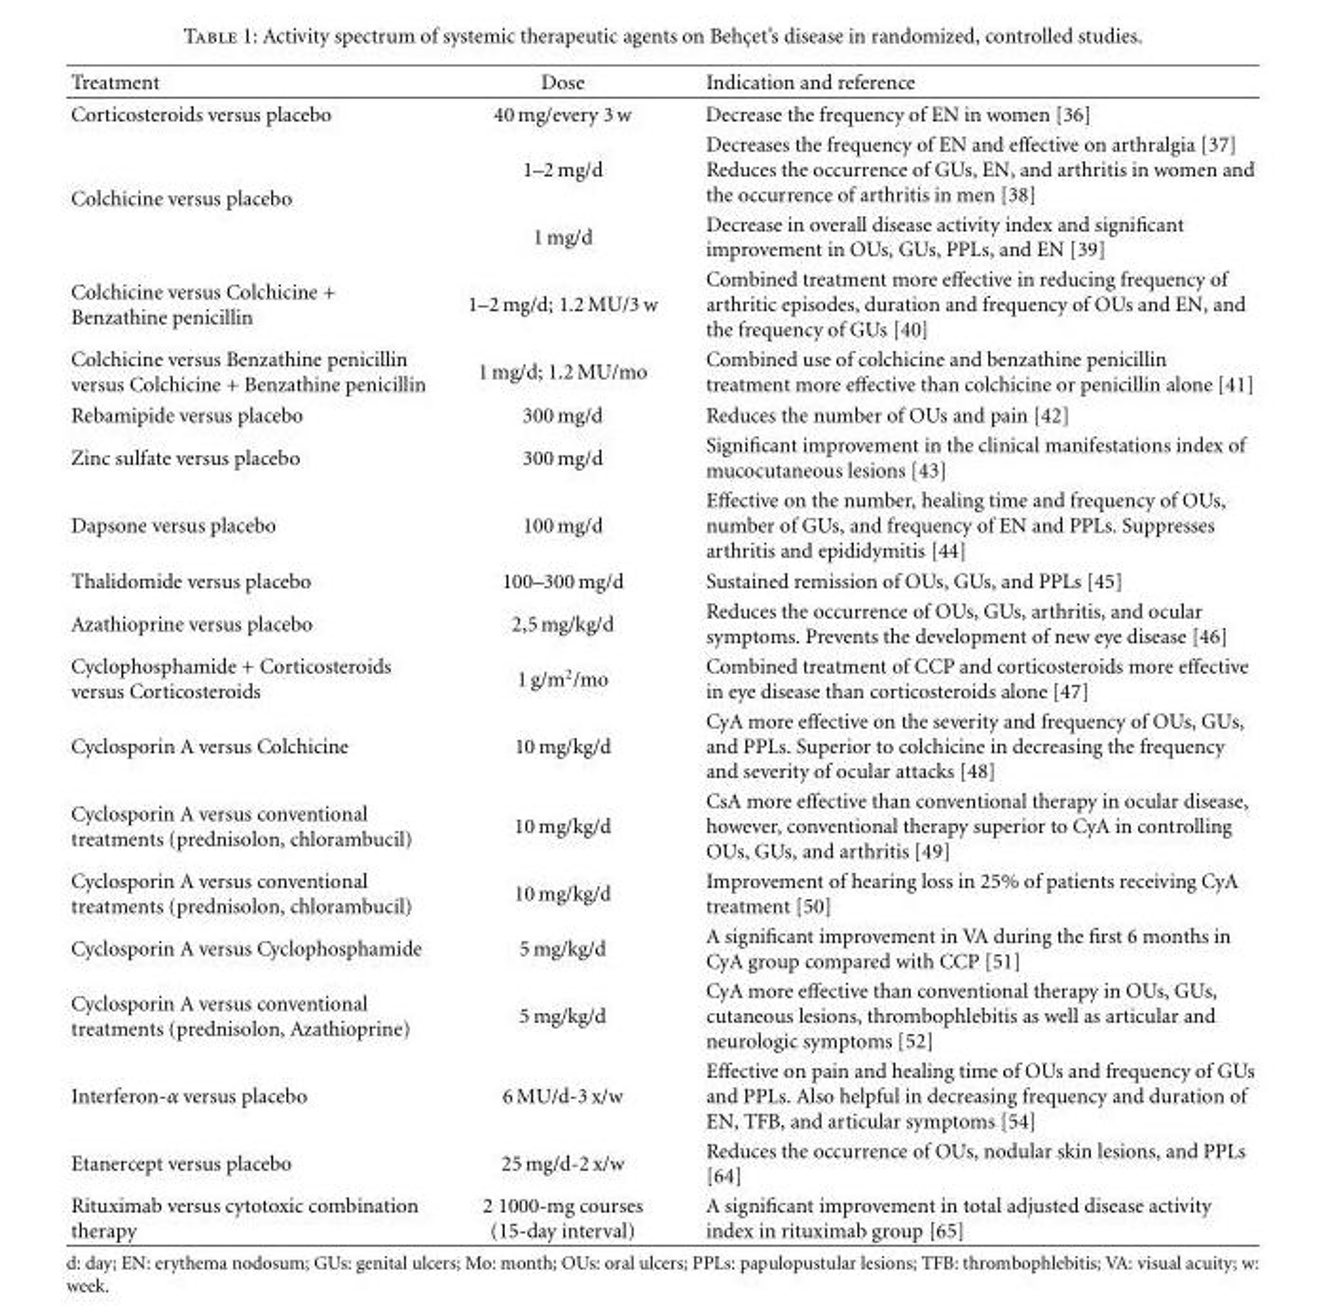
<table><thead><tr><td>Treatment</td><td>Dose</td><td>Indication and reference</td></tr></thead><tbody><tr><td>Corticosteroids versus placebo</td><td>40 mg/every 3 w</td><td>Decrease the frequency of EN in women [36]</td></tr><tr><td rowspan="2">Colchicine versus placebo</td><td>1–2 mg/d</td><td>Decreases the frequency of EN and effective on arthralgia [37] Reduces the occurrence of GUs, EN, and arthritis in women and the occurrence of arthritis in men [38]</td></tr><tr><td>1 mg/d</td><td>Decrease in overall disease activity index and significant improvement in OUs, GUs, PPLs, and EN [39]</td></tr><tr><td>Colchicine versus Colchicine + Benzathine penicillin</td><td>1–2 mg/d; 1.2 MU/3 w</td><td>Combined treatment more effective in reducing frequency of arthritic episodes, duration and frequency of OUs and EN, and the frequency of GUs [40]</td></tr><tr><td>Colchicine versus Benzathine penicillin versus Colchicine + Benzathine penicillin</td><td>1 mg/d; 1.2 MU/mo</td><td>Combined use of colchicine and benzathine penicillin treatment more effective than colchicine or penicillin alone [41]</td></tr><tr><td>Rebamipide versus placebo</td><td>300 mg/d</td><td>Reduces the number of OUs and pain [42]</td></tr><tr><td>Zinc sulfate versus placebo</td><td>300 mg/d</td><td>Significant improvement in the clinical manifestations index of mucocutaneous lesions [43]</td></tr><tr><td>Dapsone versus placebo</td><td>100 mg/d</td><td>Effective on the number, healing time and frequency of OUs, number of GUs, and frequency of EN and PPLs. Suppresses arthritis and epididymitis [44]</td></tr><tr><td>Thalidomide versus placebo</td><td>100–300 mg/d</td><td>Sustained remission of OUs, GUs, and PPLs [45]</td></tr><tr><td>Azathioprine versus placebo</td><td>2,5 mg/kg/d</td><td>Reduces the occurrence of OUs, GUs, arthritis, and ocular symptoms. Prevents the development of new eye disease [46]</td></tr><tr><td>Cyclophosphamide + Corticosteroids versus Corticosteroids</td><td>1 g/m<sup>2</sup>/mo</td><td>Combined treatment of CCP and corticosteroids more effective in eye disease than corticosteroids alone [47]</td></tr><tr><td>Cyclosporin A versus Colchicine</td><td>10 mg/kg/d</td><td>CyA more effective on the severity and frequency of OUs, GUs, and PPLs. Superior to colchicine in decreasing the frequency and severity of ocular attacks [48]</td></tr><tr><td>Cyclosporin A versus conventional treatments (prednisolon, chlorambucil)</td><td>10 mg/kg/d</td><td>CsA more effective than conventional therapy in ocular disease, however, conventional therapy superior to CyA in controlling OUs, GUs, and arthritis [49]</td></tr><tr><td>Cyclosporin A versus conventional treatments (prednisolon, chlorambucil)</td><td>10 mg/kg/d</td><td>Improvement of hearing loss in 25% of patients receiving CyA treatment [50]</td></tr><tr><td>Cyclosporin A versus Cyclophosphamide</td><td>5 mg/kg/d</td><td>A significant improvement in VA during the first 6 months in CyA group compared with CCP [51]</td></tr><tr><td>Cyclosporin A versus conventional treatments (prednisolon, Azathioprine)</td><td>5 mg/kg/d</td><td>CyA more effective than conventional therapy in OUs, GUs, cutaneous lesions, thrombophlebitis as well as articular and neurologic symptoms [52]</td></tr><tr><td>Interferon-α versus placebo</td><td>6 MU/d-3 x/w</td><td>Effective on pain and healing time of OUs and frequency of GUs and PPLs. Also helpful in decreasing frequency and duration of EN, TFB, and articular symptoms [54]</td></tr><tr><td>Etanercept versus placebo</td><td>25 mg/d-2 x/w</td><td>Reduces the occurrence of OUs, nodular skin lesions, and PPLs [64]</td></tr><tr><td>Rituximab versus cytotoxic combination therapy</td><td>2 1000-mg courses (15-day interval)</td><td>A significant improvement in total adjusted disease activity index in rituximab group [65]</td></tr></tbody></table>